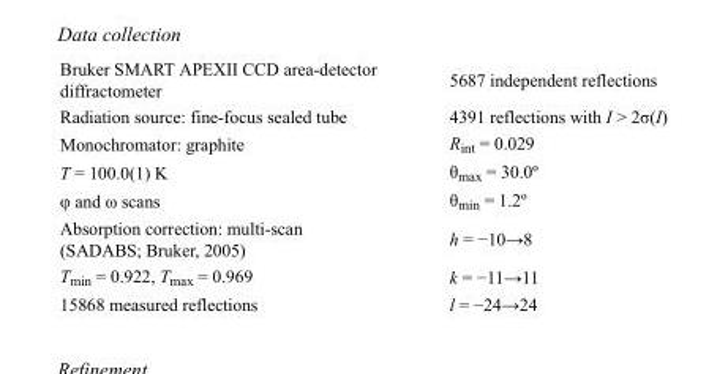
<table><tbody><tr><td>Bruker SMART APEXII CCD area-detector diffractometer</td><td>5687 independent reflections</td></tr><tr><td>Radiation source: fine-focus sealed tube</td><td>4391 reflections with I &gt; 2σ(I)</td></tr><tr><td>Monochromator: graphite</td><td>R<sub>int</sub> = 0.029</td></tr><tr><td>T = 100.0(1) K</td><td>θ<sub>max</sub> = 30.0º</td></tr><tr><td>φ and ω scans</td><td>θ<sub>min</sub> = 1.2º</td></tr><tr><td>Absorption correction: multi-scan (SADABS; Bruker, 2005)</td><td>h = −10→8</td></tr><tr><td>T<sub>min</sub> = 0.922, T<sub>max</sub> = 0.969</td><td>k = −11→11</td></tr><tr><td>15868 measured reflections</td><td>l = −24→24</td></tr></tbody></table>